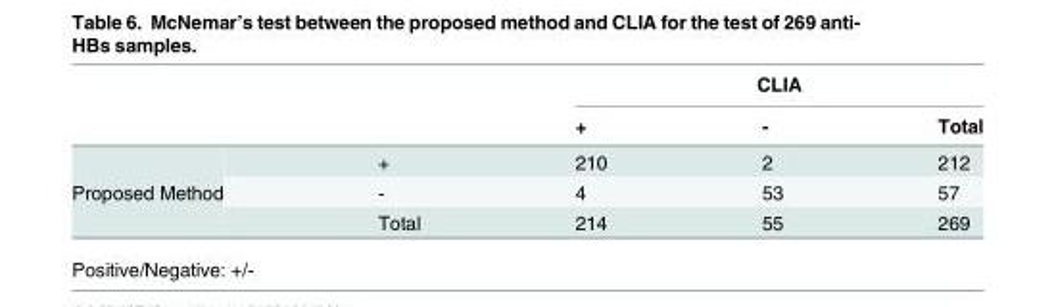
<table><thead><tr><td rowspan="2"></td><td rowspan="2"></td><td colspan="3">CLIA</td></tr><tr><td>+</td><td>-</td><td>Total</td></tr></thead><tbody><tr><td rowspan="3">Proposed Method</td><td>+</td><td>210</td><td>2</td><td>212</td></tr><tr><td>-</td><td>4</td><td>53</td><td>57</td></tr><tr><td>Total</td><td>214</td><td>55</td><td>269</td></tr></tbody></table>